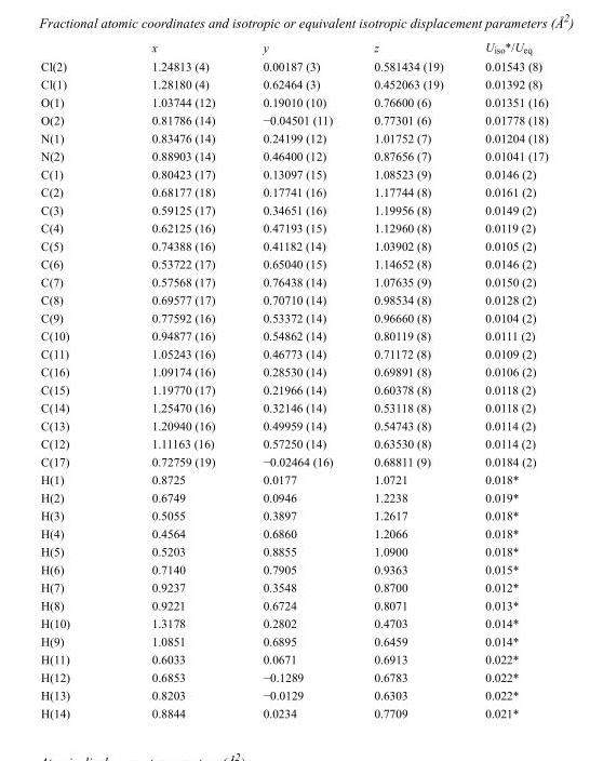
<table><thead><tr><td></td><td>x</td><td>y</td><td>z</td><td>U<sub>iso</sub>*/U<sub>eq</sub></td></tr></thead><tbody><tr><td>Cl(2)</td><td>1.24813 (4)</td><td>0.00187 (3)</td><td>0.581434 (19)</td><td>0.01543 (8)</td></tr><tr><td>Cl(1)</td><td>1.28180 (4)</td><td>0.62464 (3)</td><td>0.452063 (19)</td><td>0.01392 (8)</td></tr><tr><td>O(1)</td><td>1.03744 (12)</td><td>0.19010 (10)</td><td>0.76600 (6)</td><td>0.01351 (16)</td></tr><tr><td>O(2)</td><td>0.81786 (14)</td><td>−0.04501 (11)</td><td>0.77301 (6)</td><td>0.01778 (18)</td></tr><tr><td>N(1)</td><td>0.83476 (14)</td><td>0.24199 (12)</td><td>1.01752 (7)</td><td>0.01204 (18)</td></tr><tr><td>N(2)</td><td>0.88903 (14)</td><td>0.46400 (12)</td><td>0.87656 (7)</td><td>0.01041 (17)</td></tr><tr><td>C(1)</td><td>0.80423 (17)</td><td>0.13097 (15)</td><td>1.08523 (9)</td><td>0.0146 (2)</td></tr><tr><td>C(2)</td><td>0.68177 (18)</td><td>0.17741 (16)</td><td>1.17744 (8)</td><td>0.0161 (2)</td></tr><tr><td>C(3)</td><td>0.59125 (17)</td><td>0.34651 (16)</td><td>1.19956 (8)</td><td>0.0149 (2)</td></tr><tr><td>C(4)</td><td>0.62125 (16)</td><td>0.47193 (15)</td><td>1.12960 (8)</td><td>0.0119 (2)</td></tr><tr><td>C(5)</td><td>0.74388 (16)</td><td>0.41182 (14)</td><td>1.03902 (8)</td><td>0.0105 (2)</td></tr><tr><td>C(6)</td><td>0.53722 (17)</td><td>0.65040 (15)</td><td>1.14652 (8)</td><td>0.0146 (2)</td></tr><tr><td>C(7)</td><td>0.57568 (17)</td><td>0.76438 (14)</td><td>1.07635 (9)</td><td>0.0150 (2)</td></tr><tr><td>C(8)</td><td>0.69577 (17)</td><td>0.70710 (14)</td><td>0.98534 (8)</td><td>0.0128 (2)</td></tr><tr><td>C(9)</td><td>0.77592 (16)</td><td>0.53372 (14)</td><td>0.96660 (8)</td><td>0.0104 (2)</td></tr><tr><td>C(10)</td><td>0.94877 (16)</td><td>0.54862 (14)</td><td>0.80119 (8)</td><td>0.0111 (2)</td></tr><tr><td>C(11)</td><td>1.05243 (16)</td><td>0.46773 (14)</td><td>0.71172 (8)</td><td>0.0109 (2)</td></tr><tr><td>C(16)</td><td>1.09174 (16)</td><td>0.28530 (14)</td><td>0.69891 (8)</td><td>0.0106 (2)</td></tr><tr><td>C(15)</td><td>1.19770 (17)</td><td>0.21966 (14)</td><td>0.60378 (8)</td><td>0.0118 (2)</td></tr><tr><td>C(14)</td><td>1.25470 (16)</td><td>0.32146 (14)</td><td>0.53118 (8)</td><td>0.0118 (2)</td></tr><tr><td>C(13)</td><td>1.20940 (16)</td><td>0.49959 (14)</td><td>0.54743 (8)</td><td>0.0114 (2)</td></tr><tr><td>C(12)</td><td>1.11163 (16)</td><td>0.57250 (14)</td><td>0.63530 (8)</td><td>0.0114 (2)</td></tr><tr><td>C(17)</td><td>0.72759 (19)</td><td>−0.02464 (16)</td><td>0.68811 (9)</td><td>0.0184 (2)</td></tr><tr><td>H(1)</td><td>0.8725</td><td>0.0177</td><td>1.0721</td><td>0.018*</td></tr><tr><td>H(2)</td><td>0.6749</td><td>0.0946</td><td>1.2238</td><td>0.019*</td></tr><tr><td>H(3)</td><td>0.5055</td><td>0.3897</td><td>1.2617</td><td>0.018*</td></tr><tr><td>H(4)</td><td>0.4564</td><td>0.6860</td><td>1.2066</td><td>0.018*</td></tr><tr><td>H(5)</td><td>0.5203</td><td>0.8855</td><td>1.0900</td><td>0.018*</td></tr><tr><td>H(6)</td><td>0.7140</td><td>0.7905</td><td>0.9363</td><td>0.015*</td></tr><tr><td>H(7)</td><td>0.9237</td><td>0.3548</td><td>0.8700</td><td>0.012*</td></tr><tr><td>H(8)</td><td>0.9221</td><td>0.6724</td><td>0.8071</td><td>0.013*</td></tr><tr><td>H(10)</td><td>1.3178</td><td>0.2802</td><td>0.4703</td><td>0.014*</td></tr><tr><td>H(9)</td><td>1.0851</td><td>0.6895</td><td>0.6459</td><td>0.014*</td></tr><tr><td>H(11)</td><td>0.6033</td><td>0.0671</td><td>0.6913</td><td>0.022*</td></tr><tr><td>H(12)</td><td>0.6853</td><td>−0.1289</td><td>0.6783</td><td>0.022*</td></tr><tr><td>H(13)</td><td>0.8203</td><td>−0.0129</td><td>0.6303</td><td>0.022*</td></tr><tr><td>H(14)</td><td>0.8844</td><td>0.0234</td><td>0.7709</td><td>0.021*</td></tr></tbody></table>